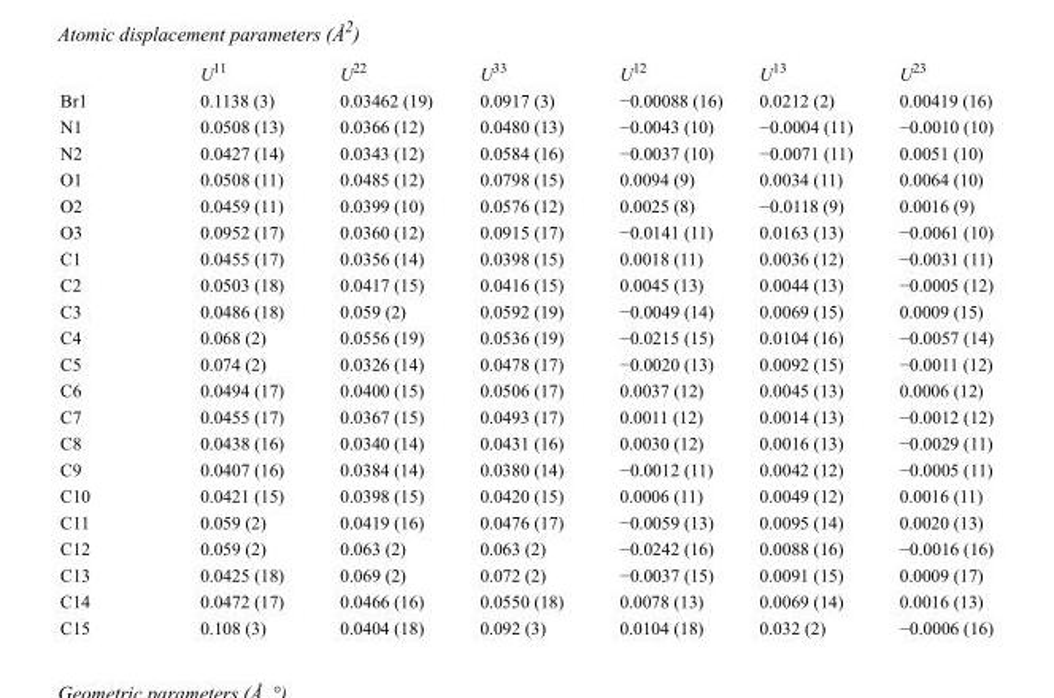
<table><thead><tr><td></td><td>U<sup>11</sup></td><td>U<sup>22</sup></td><td>U<sup>33</sup></td><td>U<sup>12</sup></td><td>U<sup>13</sup></td><td>U<sup>23</sup></td></tr></thead><tbody><tr><td>Br1</td><td>0.1138 (3)</td><td>0.03462 (19)</td><td>0.0917 (3)</td><td>−0.00088 (16)</td><td>0.0212 (2)</td><td>0.00419 (16)</td></tr><tr><td>N1</td><td>0.0508 (13)</td><td>0.0366 (12)</td><td>0.0480 (13)</td><td>−0.0043 (10)</td><td>−0.0004 (11)</td><td>−0.0010 (10)</td></tr><tr><td>N2</td><td>0.0427 (14)</td><td>0.0343 (12)</td><td>0.0584 (16)</td><td>−0.0037 (10)</td><td>−0.0071 (11)</td><td>0.0051 (10)</td></tr><tr><td>O1</td><td>0.0508 (11)</td><td>0.0485 (12)</td><td>0.0798 (15)</td><td>0.0094 (9)</td><td>0.0034 (11)</td><td>0.0064 (10)</td></tr><tr><td>O2</td><td>0.0459 (11)</td><td>0.0399 (10)</td><td>0.0576 (12)</td><td>0.0025 (8)</td><td>−0.0118 (9)</td><td>0.0016 (9)</td></tr><tr><td>O3</td><td>0.0952 (17)</td><td>0.0360 (12)</td><td>0.0915 (17)</td><td>−0.0141 (11)</td><td>0.0163 (13)</td><td>−0.0061 (10)</td></tr><tr><td>C1</td><td>0.0455 (17)</td><td>0.0356 (14)</td><td>0.0398 (15)</td><td>0.0018 (11)</td><td>0.0036 (12)</td><td>−0.0031 (11)</td></tr><tr><td>C2</td><td>0.0503 (18)</td><td>0.0417 (15)</td><td>0.0416 (15)</td><td>0.0045 (13)</td><td>0.0044 (13)</td><td>−0.0005 (12)</td></tr><tr><td>C3</td><td>0.0486 (18)</td><td>0.059 (2)</td><td>0.0592 (19)</td><td>−0.0049 (14)</td><td>0.0069 (15)</td><td>0.0009 (15)</td></tr><tr><td>C4</td><td>0.068 (2)</td><td>0.0556 (19)</td><td>0.0536 (19)</td><td>−0.0215 (15)</td><td>0.0104 (16)</td><td>−0.0057 (14)</td></tr><tr><td>C5</td><td>0.074 (2)</td><td>0.0326 (14)</td><td>0.0478 (17)</td><td>−0.0020 (13)</td><td>0.0092 (15)</td><td>−0.0011 (12)</td></tr><tr><td>C6</td><td>0.0494 (17)</td><td>0.0400 (15)</td><td>0.0506 (17)</td><td>0.0037 (12)</td><td>0.0045 (13)</td><td>0.0006 (12)</td></tr><tr><td>C7</td><td>0.0455 (17)</td><td>0.0367 (15)</td><td>0.0493 (17)</td><td>0.0011 (12)</td><td>0.0014 (13)</td><td>−0.0012 (12)</td></tr><tr><td>C8</td><td>0.0438 (16)</td><td>0.0340 (14)</td><td>0.0431 (16)</td><td>0.0030 (12)</td><td>0.0016 (13)</td><td>−0.0029 (11)</td></tr><tr><td>C9</td><td>0.0407 (16)</td><td>0.0384 (14)</td><td>0.0380 (14)</td><td>−0.0012 (11)</td><td>0.0042 (12)</td><td>−0.0005 (11)</td></tr><tr><td>C10</td><td>0.0421 (15)</td><td>0.0398 (15)</td><td>0.0420 (15)</td><td>0.0006 (11)</td><td>0.0049 (12)</td><td>0.0016 (11)</td></tr><tr><td>C11</td><td>0.059 (2)</td><td>0.0419 (16)</td><td>0.0476 (17)</td><td>−0.0059 (13)</td><td>0.0095 (14)</td><td>0.0020 (13)</td></tr><tr><td>C12</td><td>0.059 (2)</td><td>0.063 (2)</td><td>0.063 (2)</td><td>−0.0242 (16)</td><td>0.0088 (16)</td><td>−0.0016 (16)</td></tr><tr><td>C13</td><td>0.0425 (18)</td><td>0.069 (2)</td><td>0.072 (2)</td><td>−0.0037 (15)</td><td>0.0091 (15)</td><td>0.0009 (17)</td></tr><tr><td>C14</td><td>0.0472 (17)</td><td>0.0466 (16)</td><td>0.0550 (18)</td><td>0.0078 (13)</td><td>0.0069 (14)</td><td>0.0016 (13)</td></tr><tr><td>C15</td><td>0.108 (3)</td><td>0.0404 (18)</td><td>0.092 (3)</td><td>0.0104 (18)</td><td>0.032 (2)</td><td>−0.0006 (16)</td></tr></tbody></table>